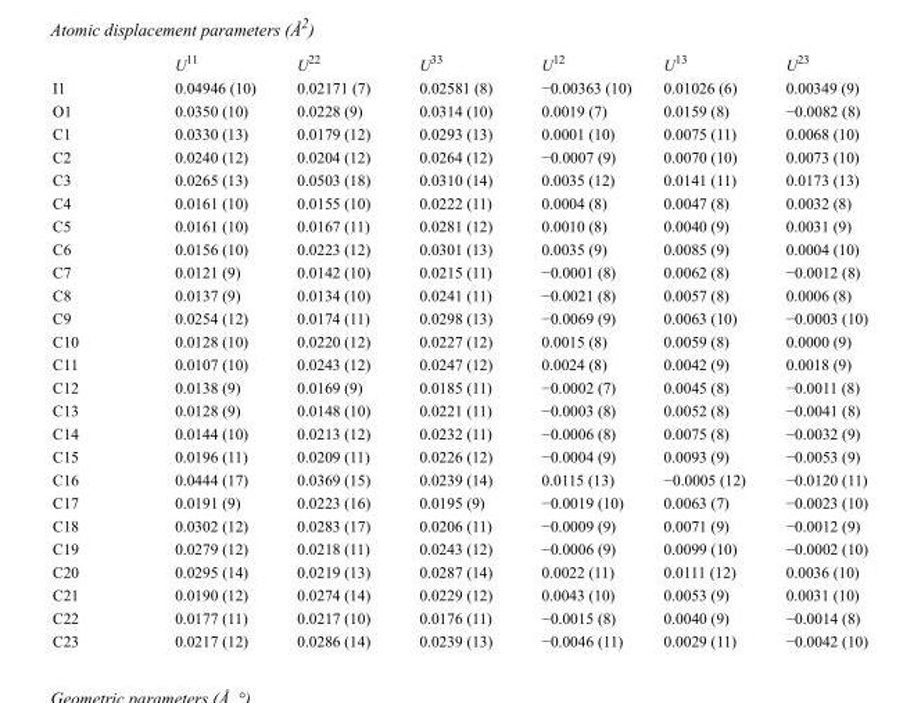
<table><thead><tr><td></td><td>U<sup>11</sup></td><td>U<sup>22</sup></td><td>U<sup>33</sup></td><td>U<sup>12</sup></td><td>U<sup>13</sup></td><td>U<sup>23</sup></td></tr></thead><tbody><tr><td>I1</td><td>0.04946 (10)</td><td>0.02171 (7)</td><td>0.02581 (8)</td><td>−0.00363 (10)</td><td>0.01026 (6)</td><td>0.00349 (9)</td></tr><tr><td>O1</td><td>0.0350 (10)</td><td>0.0228 (9)</td><td>0.0314 (10)</td><td>0.0019 (7)</td><td>0.0159 (8)</td><td>−0.0082 (8)</td></tr><tr><td>C1</td><td>0.0330 (13)</td><td>0.0179 (12)</td><td>0.0293 (13)</td><td>0.0001 (10)</td><td>0.0075 (11)</td><td>0.0068 (10)</td></tr><tr><td>C2</td><td>0.0240 (12)</td><td>0.0204 (12)</td><td>0.0264 (12)</td><td>−0.0007 (9)</td><td>0.0070 (10)</td><td>0.0073 (10)</td></tr><tr><td>C3</td><td>0.0265 (13)</td><td>0.0503 (18)</td><td>0.0310 (14)</td><td>0.0035 (12)</td><td>0.0141 (11)</td><td>0.0173 (13)</td></tr><tr><td>C4</td><td>0.0161 (10)</td><td>0.0155 (10)</td><td>0.0222 (11)</td><td>0.0004 (8)</td><td>0.0047 (8)</td><td>0.0032 (8)</td></tr><tr><td>C5</td><td>0.0161 (10)</td><td>0.0167 (11)</td><td>0.0281 (12)</td><td>0.0010 (8)</td><td>0.0040 (9)</td><td>0.0031 (9)</td></tr><tr><td>C6</td><td>0.0156 (10)</td><td>0.0223 (12)</td><td>0.0301 (13)</td><td>0.0035 (9)</td><td>0.0085 (9)</td><td>0.0004 (10)</td></tr><tr><td>C7</td><td>0.0121 (9)</td><td>0.0142 (10)</td><td>0.0215 (11)</td><td>−0.0001 (8)</td><td>0.0062 (8)</td><td>−0.0012 (8)</td></tr><tr><td>C8</td><td>0.0137 (9)</td><td>0.0134 (10)</td><td>0.0241 (11)</td><td>−0.0021 (8)</td><td>0.0057 (8)</td><td>0.0006 (8)</td></tr><tr><td>C9</td><td>0.0254 (12)</td><td>0.0174 (11)</td><td>0.0298 (13)</td><td>−0.0069 (9)</td><td>0.0063 (10)</td><td>−0.0003 (10)</td></tr><tr><td>C10</td><td>0.0128 (10)</td><td>0.0220 (12)</td><td>0.0227 (12)</td><td>0.0015 (8)</td><td>0.0059 (8)</td><td>0.0000 (9)</td></tr><tr><td>C11</td><td>0.0107 (10)</td><td>0.0243 (12)</td><td>0.0247 (12)</td><td>0.0024 (8)</td><td>0.0042 (9)</td><td>0.0018 (9)</td></tr><tr><td>C12</td><td>0.0138 (9)</td><td>0.0169 (9)</td><td>0.0185 (11)</td><td>−0.0002 (7)</td><td>0.0045 (8)</td><td>−0.0011 (8)</td></tr><tr><td>C13</td><td>0.0128 (9)</td><td>0.0148 (10)</td><td>0.0221 (11)</td><td>−0.0003 (8)</td><td>0.0052 (8)</td><td>−0.0041 (8)</td></tr><tr><td>C14</td><td>0.0144 (10)</td><td>0.0213 (12)</td><td>0.0232 (11)</td><td>−0.0006 (8)</td><td>0.0075 (8)</td><td>−0.0032 (9)</td></tr><tr><td>C15</td><td>0.0196 (11)</td><td>0.0209 (11)</td><td>0.0226 (12)</td><td>−0.0004 (9)</td><td>0.0093 (9)</td><td>−0.0053 (9)</td></tr><tr><td>C16</td><td>0.0444 (17)</td><td>0.0369 (15)</td><td>0.0239 (14)</td><td>0.0115 (13)</td><td>−0.0005 (12)</td><td>−0.0120 (11)</td></tr><tr><td>C17</td><td>0.0191 (9)</td><td>0.0223 (16)</td><td>0.0195 (9)</td><td>−0.0019 (10)</td><td>0.0063 (7)</td><td>−0.0023 (10)</td></tr><tr><td>C18</td><td>0.0302 (12)</td><td>0.0283 (17)</td><td>0.0206 (11)</td><td>−0.0009 (9)</td><td>0.0071 (9)</td><td>−0.0012 (9)</td></tr><tr><td>C19</td><td>0.0279 (12)</td><td>0.0218 (11)</td><td>0.0243 (12)</td><td>−0.0006 (9)</td><td>0.0099 (10)</td><td>−0.0002 (10)</td></tr><tr><td>C20</td><td>0.0295 (14)</td><td>0.0219 (13)</td><td>0.0287 (14)</td><td>0.0022 (11)</td><td>0.0111 (12)</td><td>0.0036 (10)</td></tr><tr><td>C21</td><td>0.0190 (12)</td><td>0.0274 (14)</td><td>0.0229 (12)</td><td>0.0043 (10)</td><td>0.0053 (9)</td><td>0.0031 (10)</td></tr><tr><td>C22</td><td>0.0177 (11)</td><td>0.0217 (10)</td><td>0.0176 (11)</td><td>−0.0015 (8)</td><td>0.0040 (9)</td><td>−0.0014 (8)</td></tr><tr><td>C23</td><td>0.0217 (12)</td><td>0.0286 (14)</td><td>0.0239 (13)</td><td>−0.0046 (11)</td><td>0.0029 (11)</td><td>−0.0042 (10)</td></tr></tbody></table>